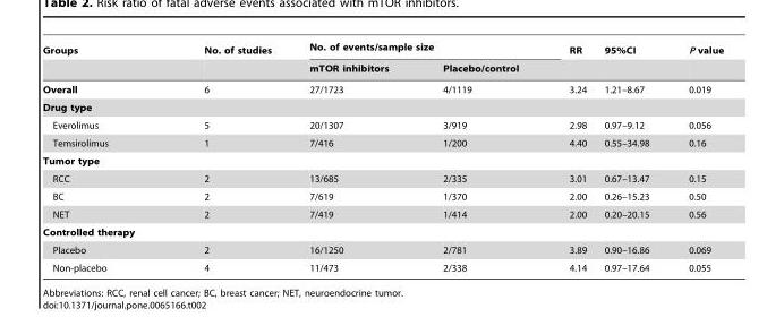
<table><thead><tr><td rowspan="2">Groups</td><td rowspan="2">No. of studies</td><td colspan="2">No. of events/sample size</td><td rowspan="2">RR</td><td rowspan="2">95%CI</td><td rowspan="2">P value</td></tr><tr><td>mTOR inhibitors</td><td>Placebo/control</td></tr></thead><tbody><tr><td>Overall</td><td>6</td><td>27/1723</td><td>4/1119</td><td>3.24</td><td>1.21–8.67</td><td>0.019</td></tr><tr><td colspan="7">Drug type</td></tr><tr><td>Everolimus</td><td>5</td><td>20/1307</td><td>3/919</td><td>2.98</td><td>0.97–9.12</td><td>0.056</td></tr><tr><td>Temsirolimus</td><td>1</td><td>7/416</td><td>1/200</td><td>4.40</td><td>0.55–34.98</td><td>0.16</td></tr><tr><td colspan="7">Tumor type</td></tr><tr><td>RCC</td><td>2</td><td>13/685</td><td>2/335</td><td>3.01</td><td>0.67–13.47</td><td>0.15</td></tr><tr><td>BC</td><td>2</td><td>7/619</td><td>1/370</td><td>2.00</td><td>0.26–15.23</td><td>0.50</td></tr><tr><td>NET</td><td>2</td><td>7/419</td><td>1/414</td><td>2.00</td><td>0.20–20.15</td><td>0.56</td></tr><tr><td colspan="7">Controlled therapy</td></tr><tr><td>Placebo</td><td>2</td><td>16/1250</td><td>2/781</td><td>3.89</td><td>0.90–16.86</td><td>0.069</td></tr><tr><td>Non-placebo</td><td>4</td><td>11/473</td><td>2/338</td><td>4.14</td><td>0.97–17.64</td><td>0.055</td></tr></tbody></table>